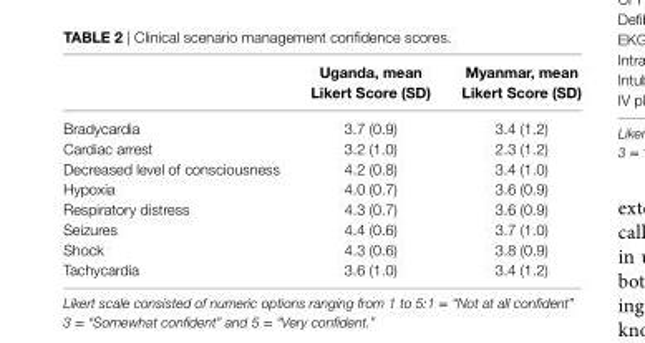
<table><thead><tr><td></td><td>Uganda, mean likert score (sD)</td><td>Myanmar, mean likert score (sD)</td></tr></thead><tbody><tr><td>Bradycardia</td><td>3.7 (0.9)</td><td>3.4 (1.2)</td></tr><tr><td>Cardiac arrest</td><td>3.2 (1.0)</td><td>2.3 (1.2)</td></tr><tr><td>Decreased level of consciousness</td><td>4.2 (0.8)</td><td>3.4 (1.0)</td></tr><tr><td>Hypoxia</td><td>4.0 (0.7)</td><td>3.6 (0.9)</td></tr><tr><td>Respiratory distress</td><td>4.3 (0.7)</td><td>3.6 (0.9)</td></tr><tr><td>Seizures</td><td>4.4 (0.6)</td><td>3.7 (1.0)</td></tr><tr><td>Shock</td><td>4.3 (0.6)</td><td>3.8 (0.9)</td></tr><tr><td>Tachycardia</td><td>3.6 (1.0)</td><td>3.4 (1.2)</td></tr></tbody></table>